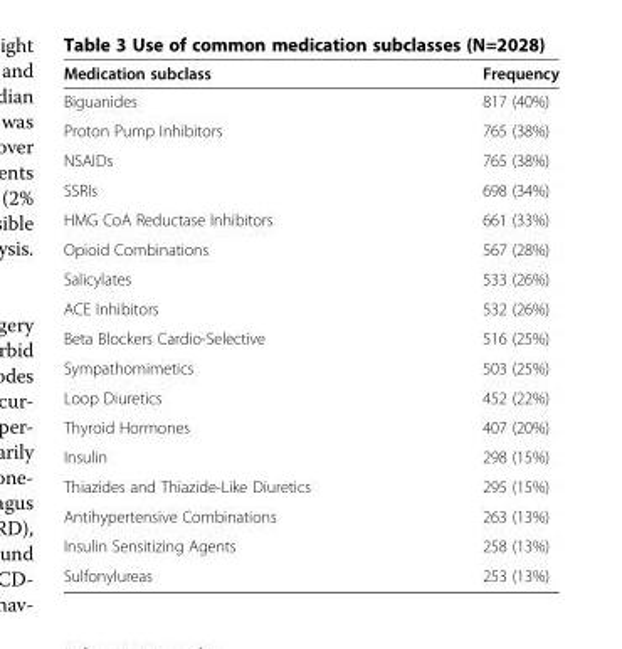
<table><thead><tr><td>Medication subclass</td><td>Frequency</td></tr></thead><tbody><tr><td>Biguanides</td><td>817 (40%)</td></tr><tr><td>Proton Pump Inhibitors</td><td>765 (38%)</td></tr><tr><td>NSAIDs</td><td>765 (38%)</td></tr><tr><td>SSRIs</td><td>698 (34%)</td></tr><tr><td>HMG CoA Reductase Inhibitors</td><td>661 (33%)</td></tr><tr><td>Opioid Combinations</td><td>567 (28%)</td></tr><tr><td>Salicylates</td><td>533 (26%)</td></tr><tr><td>ACE Inhibitors</td><td>532 (26%)</td></tr><tr><td>Beta Blockers Cardio-Selective</td><td>516 (25%)</td></tr><tr><td>Sympathomimetics</td><td>503 (25%)</td></tr><tr><td>Loop Diuretics</td><td>452 (22%)</td></tr><tr><td>Thyroid Hormones</td><td>407 (20%)</td></tr><tr><td>Insulin</td><td>298 (15%)</td></tr><tr><td>Thiazides and Thiazide-Like Diuretics</td><td>295 (15%)</td></tr><tr><td>Antihypertensive Combinations</td><td>263 (13%)</td></tr><tr><td>Insulin Sensitizing Agents</td><td>258 (13%)</td></tr><tr><td>Sulfonylureas</td><td>253 (13%)</td></tr></tbody></table>